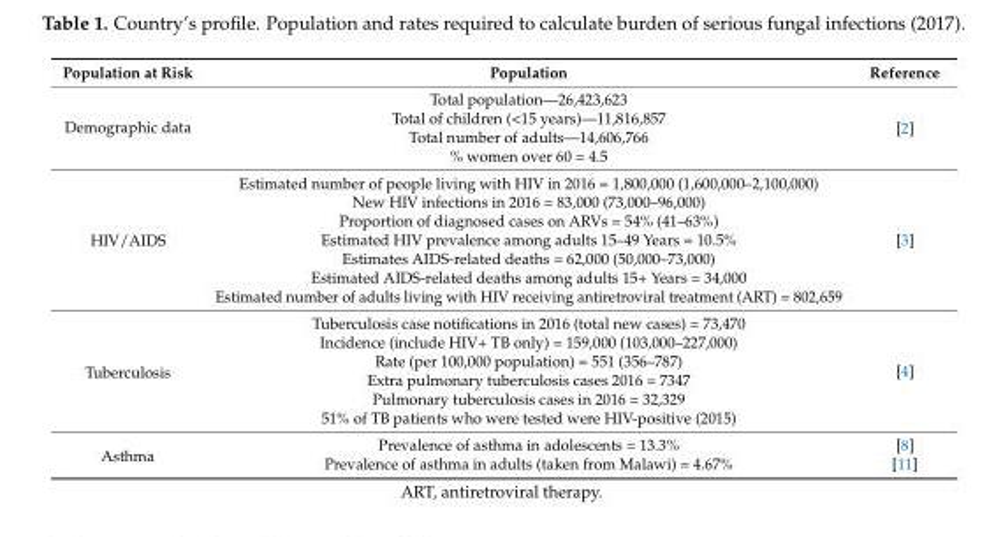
<table><thead><tr><td>Population at Risk</td><td>Population</td><td>Reference</td></tr></thead><tbody><tr><td rowspan="4">Demographic data</td><td>Total population—26,423,623</td><td rowspan="4">[2]</td></tr><tr><td>Total of children (&lt;15 years)—11,816,857</td></tr><tr><td>Total number of adults—14,606,766</td></tr><tr><td>% women over 60 = 4.5</td></tr><tr><td rowspan="7">HIV/AIDS</td><td>Estimated number of people living with HIV in 2016 = 1,800,000 (1,600,000–2,100,000)</td><td rowspan="7">[3]</td></tr><tr><td>New HIV infections in 2016 = 83,000 (73,000–96,000)</td></tr><tr><td>Proportion of diagnosed cases on ARVs = 54% (41–63%)</td></tr><tr><td>Estimated HIV prevalence among adults 15–49 Years = 10.5%</td></tr><tr><td>Estimates AIDS-related deaths = 62,000 (50,000–73,000)</td></tr><tr><td>Estimated AIDS-related deaths among adults 15+ Years = 34,000</td></tr><tr><td>Estimated number of adults living with HIV receiving antiretroviral treatment (ART) = 802,659</td></tr><tr><td rowspan="6">Tuberculosis</td><td>Tuberculosis case notifications in 2016 (total new cases) = 73,470</td><td rowspan="6">[4]</td></tr><tr><td>Incidence (include HIV+ TB only) = 159,000 (103,000–227,000)</td></tr><tr><td>Rate (per 100,000 population) = 551 (356–787)</td></tr><tr><td>Extra pulmonary tuberculosis cases 2016 = 7347</td></tr><tr><td>Pulmonary tuberculosis cases in 2016 = 32,329</td></tr><tr><td>51% of TB patients who were tested were HIV-positive (2015)</td></tr><tr><td rowspan="2">Asthma</td><td>Prevalence of asthma in adolescents = 13.3%</td><td>[8]</td></tr><tr><td>Prevalence of asthma in adults (taken from Malawi) = 4.67%</td><td>[11]</td></tr></tbody></table>